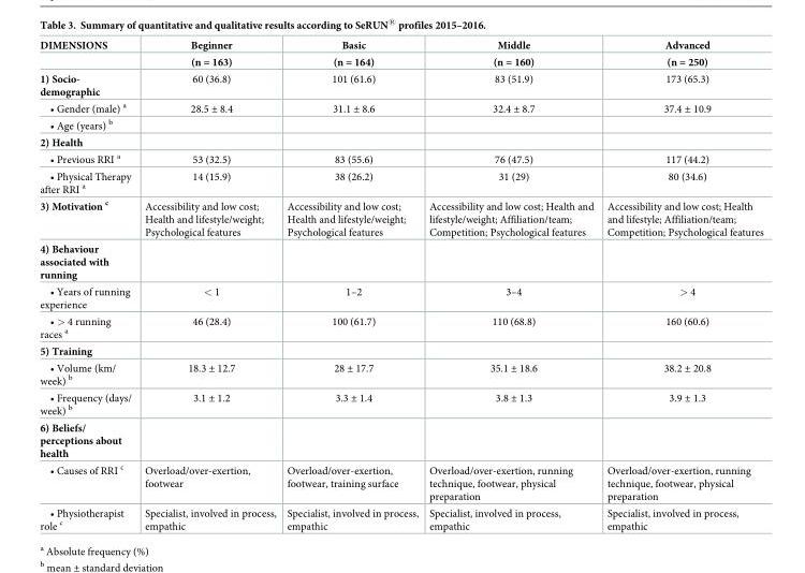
<table><thead><tr><td rowspan="2">DIMENSIONS</td><td rowspan="2">Beginner (n = 163)</td><td rowspan="2">Basic (n = 164)</td><td rowspan="2">Middle (n = 160)</td><td rowspan="2">Advanced (n = 250)</td></tr><tr></tr></thead><tbody><tr><td>1) Socio- demographic</td><td>60 (36.8)</td><td>101 (61.6)</td><td>83 (51.9)</td><td>173 (65.3)</td></tr><tr><td>• Gender (male) <sup>a</sup></td><td>28.5 ± 8.4</td><td>31.1 ± 8.6</td><td>32.4 ± 8.7</td><td>37.4 ± 10.9</td></tr><tr><td colspan="5">• Age (years) <sup>b</sup></td></tr><tr><td colspan="5">2) Health</td></tr><tr><td>• Previous RRI <sup>a</sup></td><td>53 (32.5)</td><td>83 (55.6)</td><td>76 (47.5)</td><td>117 (44.2)</td></tr><tr><td>• Physical Therapy after RRI <sup>a</sup></td><td>14 (15.9)</td><td>38 (26.2)</td><td>31 (29)</td><td>80 (34.6)</td></tr><tr><td>3) Motivation <sup>c</sup></td><td>Accessibility and low cost; Health and lifestyle/weight; Psychological features</td><td>Accessibility and low cost; Health and lifestyle/weight; Psychological features</td><td>Accessibility and low cost; Health and lifestyle/weight; Affiliation/team; Competition; Psychological features</td><td>Accessibility and low cost; Health and lifestyle; Affiliation/team; Competition; Psychological features</td></tr><tr><td colspan="5">4) Behaviour associated with running</td></tr><tr><td>• Years of running experience</td><td>&lt; 1</td><td>1–2</td><td>3–4</td><td>&gt; 4</td></tr><tr><td>• &gt; 4 running races <sup>a</sup></td><td>46 (28.4)</td><td>100 (61.7)</td><td>110 (68.8)</td><td>160 (60.6)</td></tr><tr><td colspan="5">5) Training</td></tr><tr><td>• Volume (km/ week) <sup>b</sup></td><td>18.3 ± 12.7</td><td>28 ± 17.7</td><td>35.1 ± 18.6</td><td>38.2 ± 20.8</td></tr><tr><td>• Frequency (days/ week) <sup>b</sup></td><td>3.1 ± 1.2</td><td>3.3 ± 1.4</td><td>3.8 ± 1.3</td><td>3.9 ± 1.3</td></tr><tr><td colspan="5">6) Beliefs/ perceptions about health</td></tr><tr><td>• Causes of RRI <sup>c</sup></td><td>Overload/over-exertion, footwear</td><td>Overload/over-exertion, footwear, training surface</td><td>Overload/over-exertion, running technique, footwear, physical preparation</td><td>Overload/over-exertion, running technique, footwear, physical preparation</td></tr><tr><td>• Physiotherapist role <sup>c</sup></td><td>Specialist, involved in process, empathic</td><td>Specialist, involved in process, empathic</td><td>Specialist, involved in process, empathic</td><td>Specialist, involved in process, empathic</td></tr></tbody></table>